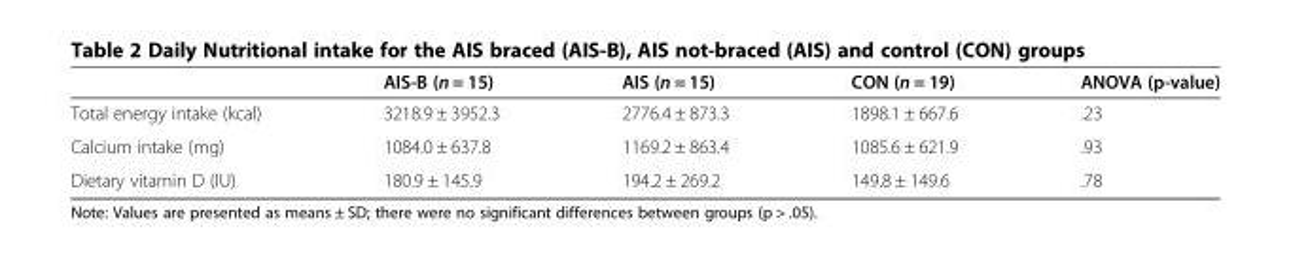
<table><thead><tr><td></td><td>AIS-B (n = 15)</td><td>AIS (n = 15)</td><td>CON (n = 19)</td><td>ANOVA (p-value)</td></tr></thead><tbody><tr><td>Total energy intake (kcal)</td><td>3218.9 ± 3952.3</td><td>2776.4 ± 873.3</td><td>1898.1 ± 667.6</td><td>.23</td></tr><tr><td>Calcium intake (mg)</td><td>1084.0 ± 637.8</td><td>1169.2 ± 863.4</td><td>1085.6 ± 621.9</td><td>.93</td></tr><tr><td>Dietary vitamin D (IU)</td><td>180.9 ± 145.9</td><td>194.2 ± 269.2</td><td>149.8 ± 149.6</td><td>.78</td></tr></tbody></table>